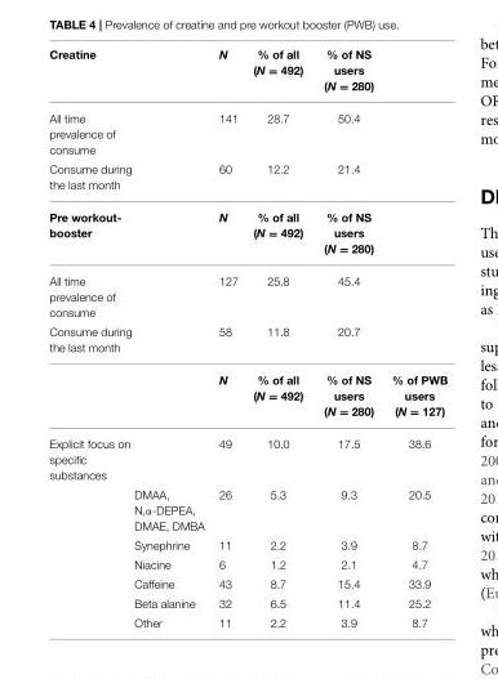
<table><thead><tr><td>Creatine</td><td></td><td>N</td><td>% of all (N = 492)</td><td>% of NS users (N = 280)</td><td></td></tr></thead><tbody><tr><td>All time prevalence of consume</td><td></td><td>141</td><td>28.7</td><td>50.4</td><td></td></tr><tr><td>Consume during the last month</td><td></td><td>60</td><td>12.2</td><td>21.4</td><td></td></tr><tr><td>Pre workout- booster</td><td></td><td>N</td><td>% of all (N = 492)</td><td>% of NS users (N = 280)</td><td></td></tr><tr><td>All time prevalence of consume</td><td></td><td>127</td><td>25.8</td><td>45.4</td><td></td></tr><tr><td rowspan="2">Consume during the last month</td><td></td><td>58</td><td>11.8</td><td>20.7</td><td></td></tr><tr><td></td><td>N</td><td>% of all (N = 492)</td><td>% of NS users (N = 280)</td><td>% of PWB users (N = 127)</td></tr><tr><td rowspan="7">Explicit focus on specific substances</td><td></td><td>49</td><td>10.0</td><td>17.5</td><td>38.6</td></tr><tr><td>DMAA, N,α-DEPEA, DMAE, DMBA</td><td>26</td><td>5.3</td><td>9.3</td><td>20.5</td></tr><tr><td>Synephrine</td><td>11</td><td>2.2</td><td>3.9</td><td>8.7</td></tr><tr><td>Niacine</td><td>6</td><td>1.2</td><td>2.1</td><td>4.7</td></tr><tr><td>Caffeine</td><td>43</td><td>8.7</td><td>15.4</td><td>33.9</td></tr><tr><td>Beta alanine</td><td>32</td><td>6.5</td><td>11.4</td><td>25.2</td></tr><tr><td>Other</td><td>11</td><td>2.2</td><td>3.9</td><td>8.7</td></tr></tbody></table>